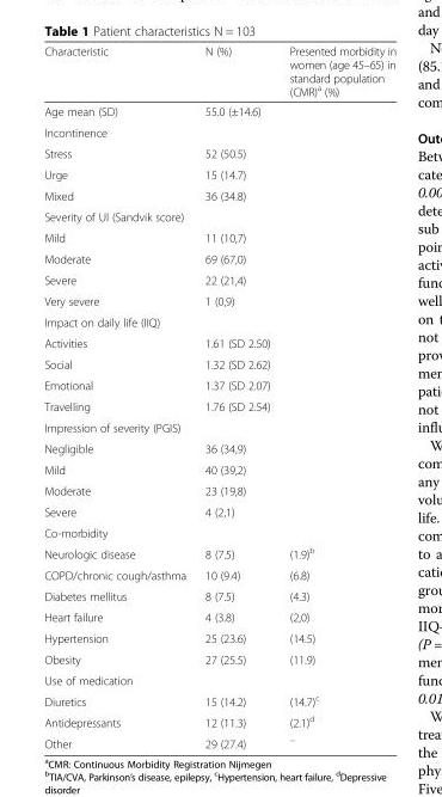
<table><thead><tr><td>Characteristic</td><td>N (%)</td><td>Presented morbidity in women (age 45–65) in standard population (CMR)<sup>a</sup> (%)</td></tr></thead><tbody><tr><td>Age mean (SD)</td><td>55.0 (±14.6)</td><td></td></tr><tr><td colspan="3">Incontinence</td></tr><tr><td>Stress</td><td>52 (50.5)</td><td></td></tr><tr><td>Urge</td><td>15 (14.7)</td><td></td></tr><tr><td>Mixed</td><td>36 (34.8)</td><td></td></tr><tr><td colspan="2">Severity of UI (Sandvik score)</td><td rowspan="15"></td></tr><tr><td>Mild</td><td>11 (10,7)</td></tr><tr><td>Moderate</td><td>69 (67,0)</td></tr><tr><td>Severe</td><td>22 (21,4)</td></tr><tr><td>Very severe</td><td>1 (0,9)</td></tr><tr><td colspan="2">Impact on daily life (IIQ)</td></tr><tr><td>Activities</td><td>1.61 (SD 2.50)</td></tr><tr><td>Social</td><td>1.32 (SD 2.62)</td></tr><tr><td>Emotional</td><td>1.37 (SD 2.07)</td></tr><tr><td>Travelling</td><td>1.76 (SD 2.54)</td></tr><tr><td colspan="2">Impression of severity (PGIS)</td></tr><tr><td>Negligible</td><td>36 (34,9)</td></tr><tr><td>Mild</td><td>40 (39,2)</td></tr><tr><td>Moderate</td><td>23 (19,8)</td></tr><tr><td>Severe</td><td>4 (2,1)</td></tr><tr><td colspan="3">Co-morbidity</td></tr><tr><td>Neurologic disease</td><td>8 (7.5)</td><td>(1.9)<sup>b</sup></td></tr><tr><td>COPD/chronic cough/asthma</td><td>10 (9.4)</td><td>(6.8)</td></tr><tr><td>Diabetes mellitus</td><td>8 (7.5)</td><td>(4.3)</td></tr><tr><td>Heart failure</td><td>4 (3.8)</td><td>(2,0)</td></tr><tr><td>Hypertension</td><td>25 (23.6)</td><td>(14.5)</td></tr><tr><td>Obesity</td><td>27 (25.5)</td><td>(11.9)</td></tr><tr><td colspan="3">Use of medication</td></tr><tr><td>Diuretics</td><td>15 (14.2)</td><td>(14.7)<sup>c</sup></td></tr><tr><td>Antidepressants</td><td>12 (11.3)</td><td>(2.1)<sup>d</sup></td></tr><tr><td>Other</td><td>29 (27.4)</td><td><sup>−</sup></td></tr></tbody></table>